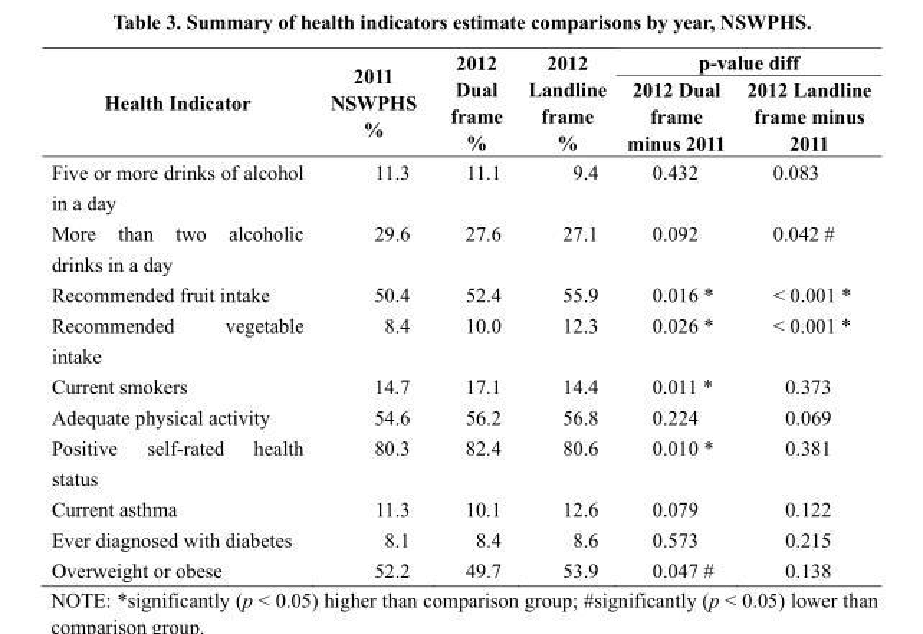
<table><thead><tr><td rowspan="2">Health Indicator</td><td rowspan="2">2011 NSWPHS %</td><td rowspan="2">2012 Dual frame %</td><td rowspan="2">2012 Landline frame %</td><td colspan="2">p-value diff</td></tr><tr><td>2012 Dual frame minus 2011</td><td>2012 Landline frame minus 2011</td></tr></thead><tbody><tr><td>Five or more drinks of alcohol in a day</td><td>11.3</td><td>11.1</td><td>9.4</td><td>0.432</td><td>0.083</td></tr><tr><td>More than two alcoholic drinks in a day</td><td>29.6</td><td>27.6</td><td>27.1</td><td>0.092</td><td>0.042 #</td></tr><tr><td>Recommended fruit intake</td><td>50.4</td><td>52.4</td><td>55.9</td><td>0.016 *</td><td>&lt; 0.001 *</td></tr><tr><td>Recommended vegetable intake</td><td>8.4</td><td>10.0</td><td>12.3</td><td>0.026 *</td><td>&lt; 0.001 *</td></tr><tr><td>Current smokers</td><td>14.7</td><td>17.1</td><td>14.4</td><td>0.011 *</td><td>0.373</td></tr><tr><td>Adequate physical activity</td><td>54.6</td><td>56.2</td><td>56.8</td><td>0.224</td><td>0.069</td></tr><tr><td>Positive self-rated health status</td><td>80.3</td><td>82.4</td><td>80.6</td><td>0.010 *</td><td>0.381</td></tr><tr><td>Current asthma</td><td>11.3</td><td>10.1</td><td>12.6</td><td>0.079</td><td>0.122</td></tr><tr><td>Ever diagnosed with diabetes</td><td>8.1</td><td>8.4</td><td>8.6</td><td>0.573</td><td>0.215</td></tr><tr><td>Overweight or obese</td><td>52.2</td><td>49.7</td><td>53.9</td><td>0.047 #</td><td>0.138</td></tr></tbody></table>